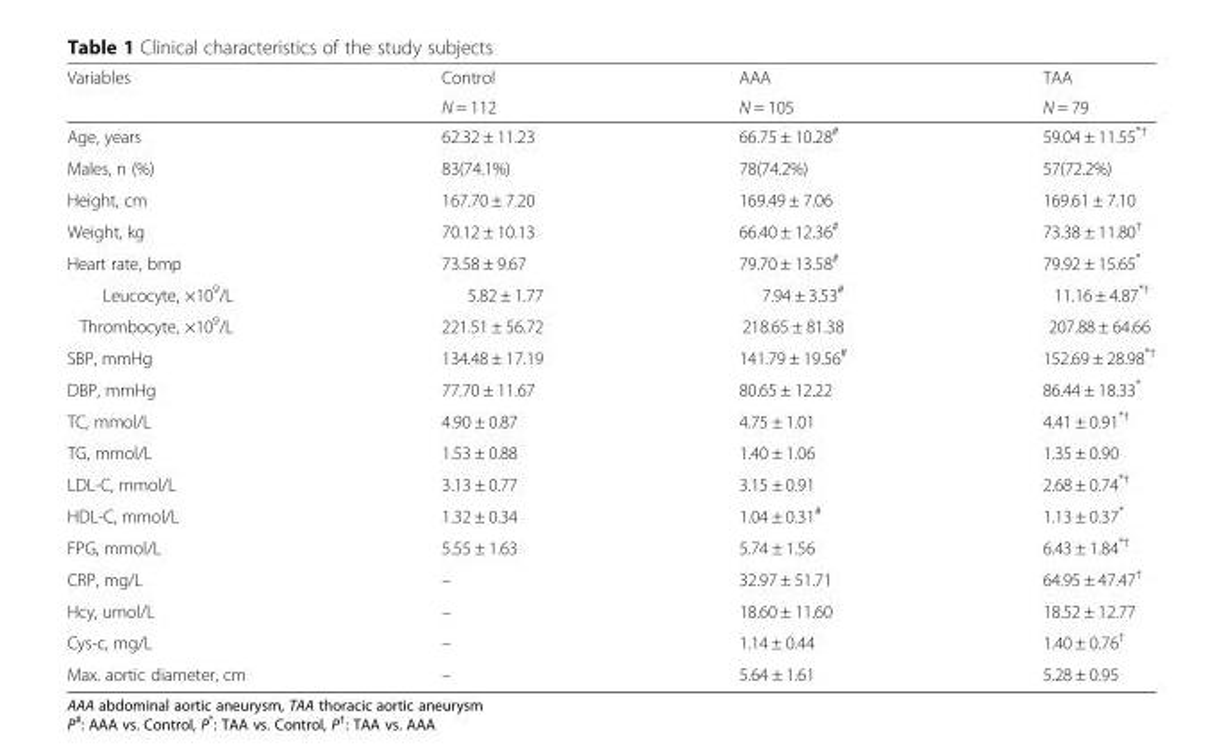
<table><thead><tr><td rowspan="2">Variables</td><td rowspan="2">Control N = 112</td><td rowspan="2">AAA N = 105</td><td rowspan="2">TAA N = 79</td></tr><tr></tr></thead><tbody><tr><td>Age, years</td><td>62.32 ± 11.23</td><td>66.75 ± 10.28<sup>#</sup></td><td>59.04 ± 11.55<sup>*†</sup></td></tr><tr><td>Males, n (%)</td><td>83(74.1%)</td><td>78(74.2%)</td><td>57(72.2%)</td></tr><tr><td>Height, cm</td><td>167.70 ± 7.20</td><td>169.49 ± 7.06</td><td>169.61 ± 7.10</td></tr><tr><td>Weight, kg</td><td>70.12 ± 10.13</td><td>66.40 ± 12.36<sup>#</sup></td><td>73.38 ± 11.80<sup>†</sup></td></tr><tr><td>Heart rate, bmp</td><td>73.58 ± 9.67</td><td>79.70 ± 13.58<sup>#</sup></td><td>79.92 ± 15.65*</td></tr><tr><td>Leucocyte, ×10<sup>9</sup>/L</td><td>5.82 ± 1.77</td><td>7.94 ± 3.53<sup>#</sup></td><td>11.16 ± 4.87<sup>*†</sup></td></tr><tr><td>Thrombocyte, ×10<sup>9</sup>/L</td><td>221.51 ± 56.72</td><td>218.65 ± 81.38</td><td>207.88 ± 64.66</td></tr><tr><td>SBP, mmHg</td><td>134.48 ± 17.19</td><td>141.79 ± 19.56<sup>#</sup></td><td>152.69 ± 28.98<sup>*†</sup></td></tr><tr><td>DBP, mmHg</td><td>77.70 ± 11.67</td><td>80.65 ± 12.22</td><td>86.44 ± 18.33*</td></tr><tr><td>TC, mmol/L</td><td>4.90 ± 0.87</td><td>4.75 ± 1.01</td><td>4.41 ± 0.91<sup>*†</sup></td></tr><tr><td>TG, mmol/L</td><td>1.53 ± 0.88</td><td>1.40 ± 1.06</td><td>1.35 ± 0.90</td></tr><tr><td>LDL-C, mmol/L</td><td>3.13 ± 0.77</td><td>3.15 ± 0.91</td><td>2.68 ± 0.74<sup>*†</sup></td></tr><tr><td>HDL-C, mmol/L</td><td>1.32 ± 0.34</td><td>1.04 ± 0.31<sup>#</sup></td><td>1.13 ± 0.37*</td></tr><tr><td>FPG, mmol/L</td><td>5.55 ± 1.63</td><td>5.74 ± 1.56</td><td>6.43 ± 1.84<sup>*†</sup></td></tr><tr><td>CRP, mg/L</td><td>–</td><td>32.97 ± 51.71</td><td>64.95 ± 47.47<sup>†</sup></td></tr><tr><td>Hcy, umol/L</td><td>–</td><td>18.60 ± 11.60</td><td>18.52 ± 12.77</td></tr><tr><td>Cys-c, mg/L</td><td>–</td><td>1.14 ± 0.44</td><td>1.40 ± 0.76<sup>†</sup></td></tr><tr><td>Max. aortic diameter, cm</td><td>–</td><td>5.64 ± 1.61</td><td>5.28 ± 0.95</td></tr></tbody></table>